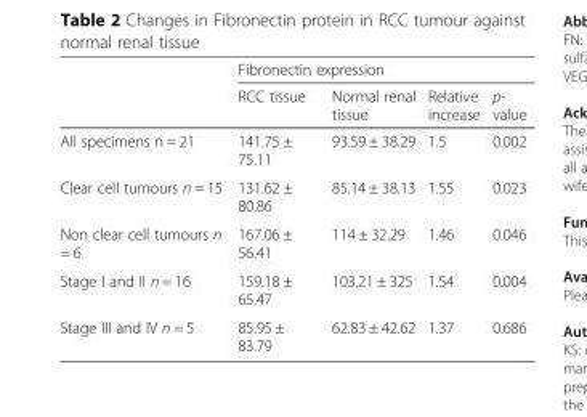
<table><thead><tr><td rowspan="2"></td><td colspan="4">Fibronectin expression</td></tr><tr><td>RCC tissue</td><td>Normal renal tissue</td><td>Relative increase</td><td>p- value</td></tr></thead><tbody><tr><td>All specimens n = 21</td><td>141.75 ± 75.11</td><td>93.59 ± 38.29</td><td>1.5</td><td>0.002</td></tr><tr><td>Clear cell tumours n = 15</td><td>131.62 ± 80.86</td><td>85.14 ± 38.13</td><td>1.55</td><td>0.023</td></tr><tr><td>Non clear cell tumours n = 6</td><td>167.06 ± 56.41</td><td>114 ± 32.29</td><td>1.46</td><td>0.046</td></tr><tr><td>Stage I and II n = 16</td><td>159.18 ± 65.47</td><td>103.21 ± 325</td><td>1.54</td><td>0.004</td></tr><tr><td>Stage III and IV n = 5</td><td>85.95 ± 83.79</td><td>62.83 ± 42.62</td><td>1.37</td><td>0.686</td></tr></tbody></table>